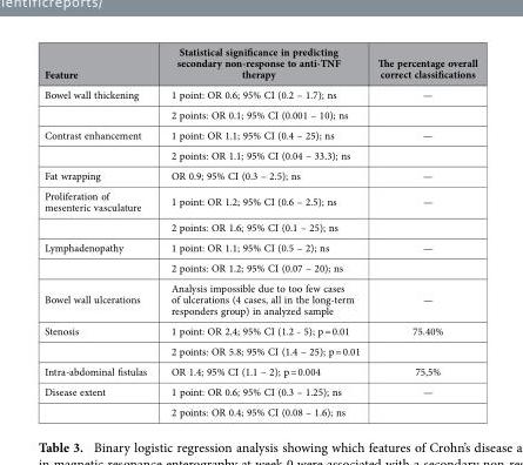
<table><thead><tr><td>Feature</td><td>Statistical significance in predicting secondary non-response to anti-TNF therapy</td><td>The percentage overall correct classifications</td></tr></thead><tbody><tr><td rowspan="2">Bowel wall thickening</td><td>1 point: OR 0.6; 95% CI (0.2 – 1.7); ns</td><td>—</td></tr><tr><td>2 points: OR 0.1; 95% CI (0.001 – 10); ns</td><td></td></tr><tr><td rowspan="2">Contrast enhancement</td><td>1 point: OR 1.1; 95% CI (0.4 – 25); ns</td><td>—</td></tr><tr><td>2 points: OR 1.1; 95% CI (0.04 – 33.3); ns</td><td></td></tr><tr><td>Fat wrapping</td><td>OR 0.9; 95% CI (0.3 – 2.5); ns</td><td>—</td></tr><tr><td rowspan="2">Proliferation of mesenteric vasculature</td><td>1 point: OR 1.2; 95% CI (0.6 – 2.5); ns</td><td>—</td></tr><tr><td>2 points: OR 1.6; 95% CI (0.1 – 25); ns</td><td></td></tr><tr><td rowspan="2">Lymphadenopathy</td><td>1 point: OR 1.1; 95% CI (0.5 – 2); ns</td><td>—</td></tr><tr><td>2 points: OR 1.2; 95% CI (0.07 – 20); ns</td><td></td></tr><tr><td>Bowel wall ulcerations</td><td>Analysis impossible due to too few cases of ulcerations (4 cases, all in the long-term responders group) in analyzed sample</td><td>—</td></tr><tr><td rowspan="2">Stenosis</td><td>1 point: OR 2.4; 95% CI (1.2 - 5); p = 0.01</td><td>75.40%</td></tr><tr><td>2 points: OR 5.8; 95% CI (1.4 – 25); p = 0.01</td><td></td></tr><tr><td>Intra-abdominal fistulas</td><td>OR 1.4; 95% CI (1.1 – 2); p = 0.004</td><td>75,5%</td></tr><tr><td rowspan="2">Disease extent</td><td>1 point: OR 0.6; 95% CI (0.3 – 1.25); ns</td><td>—</td></tr><tr><td>2 points: OR 0.4; 95% CI (0.08 – 1.6); ns</td><td></td></tr></tbody></table>